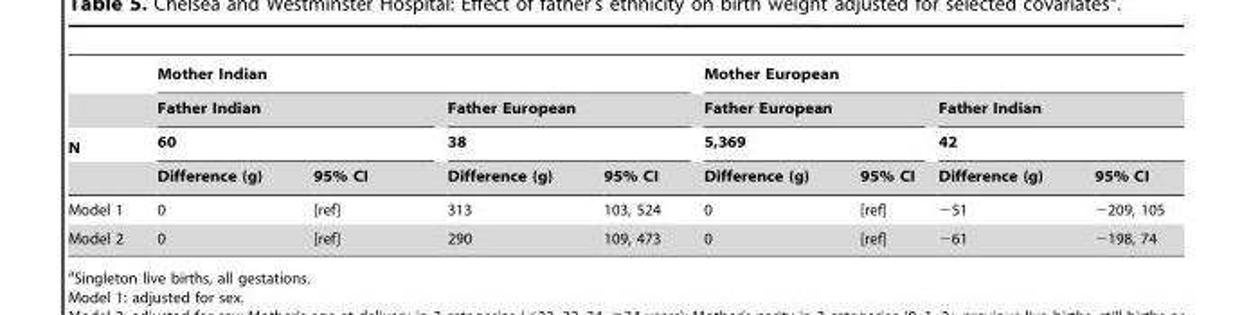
<table><thead><tr><td rowspan="4">N</td><td colspan="4">Mother Indian</td><td colspan="4">Mother European</td></tr><tr><td rowspan="2" colspan="2">Father Indian 60</td><td rowspan="2" colspan="2">Father European 38</td><td rowspan="2" colspan="2">Father European 5,369</td><td rowspan="2" colspan="2">Father Indian 42</td></tr><tr></tr><tr><td>Difference (g)</td><td>95% CI</td><td>Difference (g)</td><td>95% CI</td><td>Difference (g)</td><td>95% CI</td><td>Difference (g)</td><td>95% CI</td></tr></thead><tbody><tr><td>Model 1</td><td>0</td><td>[ref]</td><td>313</td><td>103, 524</td><td>0</td><td>[ref]</td><td>−51</td><td>−209, 105</td></tr><tr><td>Model 2</td><td>0</td><td>[ref]</td><td>290</td><td>109, 473</td><td>0</td><td>[ref]</td><td>−61</td><td>−198, 74</td></tr></tbody></table>